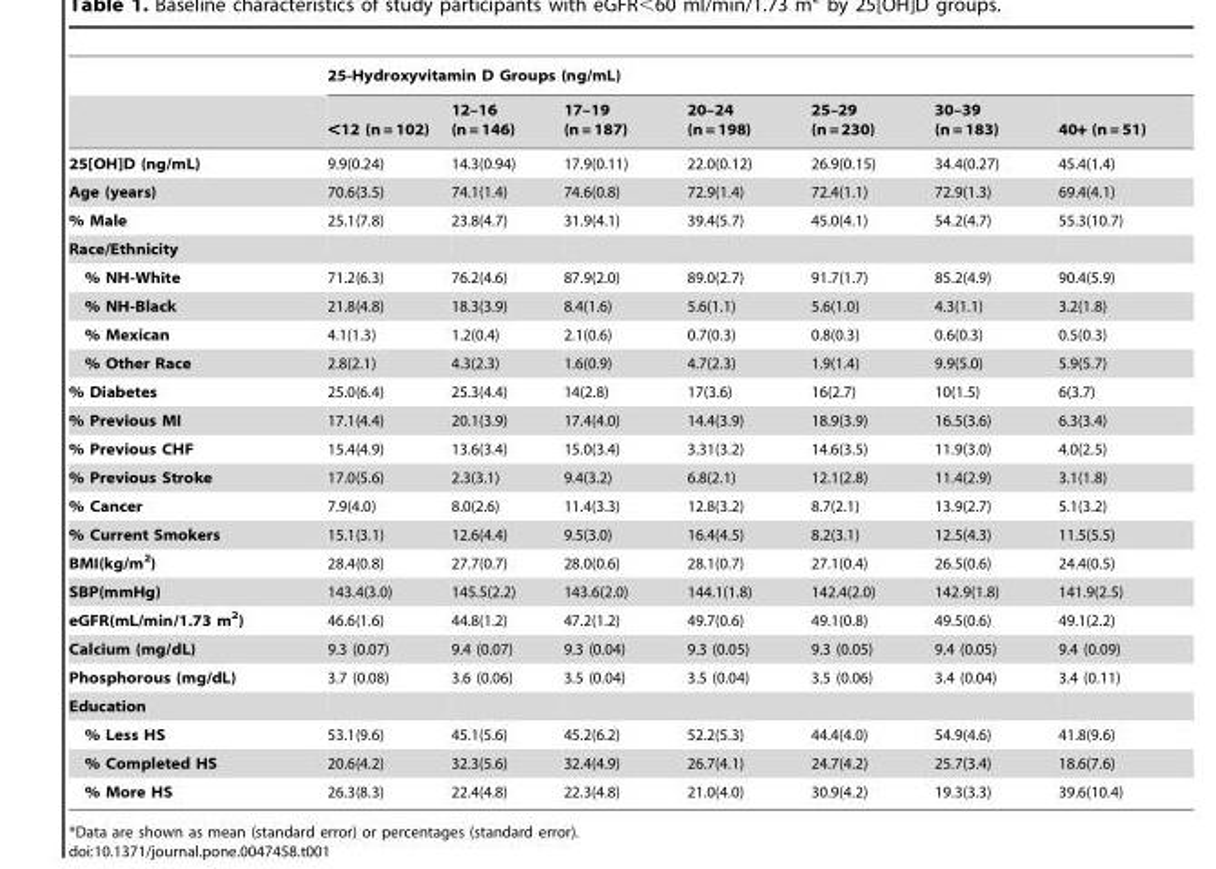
<table><thead><tr><td rowspan="2"></td><td colspan="7">25-Hydroxyvitamin D Groups (ng/mL)</td></tr><tr><td>&lt;12 (n = 102)</td><td>12–16 (n = 146)</td><td>17–19 (n = 187)</td><td>20–24 (n = 198)</td><td>25–29 (n = 230)</td><td>30–39 (n = 183)</td><td>40+ (n = 51)</td></tr></thead><tbody><tr><td>25[OH]D (ng/mL)</td><td>9.9(0.24)</td><td>14.3(0.94)</td><td>17.9(0.11)</td><td>22.0(0.12)</td><td>26.9(0.15)</td><td>34.4(0.27)</td><td>45.4(1.4)</td></tr><tr><td>Age (years)</td><td>70.6(3.5)</td><td>74.1(1.4)</td><td>74.6(0.8)</td><td>72.9(1.4)</td><td>72.4(1.1)</td><td>72.9(1.3)</td><td>69.4(4.1)</td></tr><tr><td>% Male</td><td>25.1(7.8)</td><td>23.8(4.7)</td><td>31.9(4.1)</td><td>39.4(5.7)</td><td>45.0(4.1)</td><td>54.2(4.7)</td><td>55.3(10.7)</td></tr><tr><td colspan="8">Race/Ethnicity</td></tr><tr><td>% NH-White</td><td>71.2(6.3)</td><td>76.2(4.6)</td><td>87.9(2.0)</td><td>89.0(2.7)</td><td>91.7(1.7)</td><td>85.2(4.9)</td><td>90.4(5.9)</td></tr><tr><td>% NH-Black</td><td>21.8(4.8)</td><td>18.3(3.9)</td><td>8.4(1.6)</td><td>5.6(1.1)</td><td>5.6(1.0)</td><td>4.3(1.1)</td><td>3.2(1.8)</td></tr><tr><td>% Mexican</td><td>4.1(1.3)</td><td>1.2(0.4)</td><td>2.1(0.6)</td><td>0.7(0.3)</td><td>0.8(0.3)</td><td>0.6(0.3)</td><td>0.5(0.3)</td></tr><tr><td>% Other Race</td><td>2.8(2.1)</td><td>4.3(2.3)</td><td>1.6(0.9)</td><td>4.7(2.3)</td><td>1.9(1.4)</td><td>9.9(5.0)</td><td>5.9(5.7)</td></tr><tr><td>% Diabetes</td><td>25.0(6.4)</td><td>25.3(4.4)</td><td>14(2.8)</td><td>17(3.6)</td><td>16(2.7)</td><td>10(1.5)</td><td>6(3.7)</td></tr><tr><td>% Previous MI</td><td>17.1(4.4)</td><td>20.1(3.9)</td><td>17.4(4.0)</td><td>14.4(3.9)</td><td>18.9(3.9)</td><td>16.5(3.6)</td><td>6.3(3.4)</td></tr><tr><td>% Previous CHF</td><td>15.4(4.9)</td><td>13.6(3.4)</td><td>15.0(3.4)</td><td>3.31(3.2)</td><td>14.6(3.5)</td><td>11.9(3.0)</td><td>4.0(2.5)</td></tr><tr><td>% Previous Stroke</td><td>17.0(5.6)</td><td>2.3(3.1)</td><td>9.4(3.2)</td><td>6.8(2.1)</td><td>12.1(2.8)</td><td>11.4(2.9)</td><td>3.1(1.8)</td></tr><tr><td>% Cancer</td><td>7.9(4.0)</td><td>8.0(2.6)</td><td>11.4(3.3)</td><td>12.8(3.2)</td><td>8.7(2.1)</td><td>13.9(2.7)</td><td>5.1(3.2)</td></tr><tr><td>% Current Smokers</td><td>15.1(3.1)</td><td>12.6(4.4)</td><td>9.5(3.0)</td><td>16.4(4.5)</td><td>8.2(3.1)</td><td>12.5(4.3)</td><td>11.5(5.5)</td></tr><tr><td>BMI(kg/m<sup>2</sup>)</td><td>28.4(0.8)</td><td>27.7(0.7)</td><td>28.0(0.6)</td><td>28.1(0.7)</td><td>27.1(0.4)</td><td>26.5(0.6)</td><td>24.4(0.5)</td></tr><tr><td>SBP(mmHg)</td><td>143.4(3.0)</td><td>145.5(2.2)</td><td>143.6(2.0)</td><td>144.1(1.8)</td><td>142.4(2.0)</td><td>142.9(1.8)</td><td>141.9(2.5)</td></tr><tr><td>eGFR(mL/min/1.73 m<sup>2</sup>)</td><td>46.6(1.6)</td><td>44.8(1.2)</td><td>47.2(1.2)</td><td>49.7(0.6)</td><td>49.1(0.8)</td><td>49.5(0.6)</td><td>49.1(2.2)</td></tr><tr><td>Calcium (mg/dL)</td><td>9.3 (0.07)</td><td>9.4 (0.07)</td><td>9.3 (0.04)</td><td>9.3 (0.05)</td><td>9.3 (0.05)</td><td>9.4 (0.05)</td><td>9.4 (0.09)</td></tr><tr><td>Phosphorous (mg/dL)</td><td>3.7 (0.08)</td><td>3.6 (0.06)</td><td>3.5 (0.04)</td><td>3.5 (0.04)</td><td>3.5 (0.06)</td><td>3.4 (0.04)</td><td>3.4 (0.11)</td></tr><tr><td colspan="8">Education</td></tr><tr><td>% Less HS</td><td>53.1(9.6)</td><td>45.1(5.6)</td><td>45.2(6.2)</td><td>52.2(5.3)</td><td>44.4(4.0)</td><td>54.9(4.6)</td><td>41.8(9.6)</td></tr><tr><td>% Completed HS</td><td>20.6(4.2)</td><td>32.3(5.6)</td><td>32.4(4.9)</td><td>26.7(4.1)</td><td>24.7(4.2)</td><td>25.7(3.4)</td><td>18.6(7.6)</td></tr><tr><td>% More HS</td><td>26.3(8.3)</td><td>22.4(4.8)</td><td>22.3(4.8)</td><td>21.0(4.0)</td><td>30.9(4.2)</td><td>19.3(3.3)</td><td>39.6(10.4)</td></tr></tbody></table>